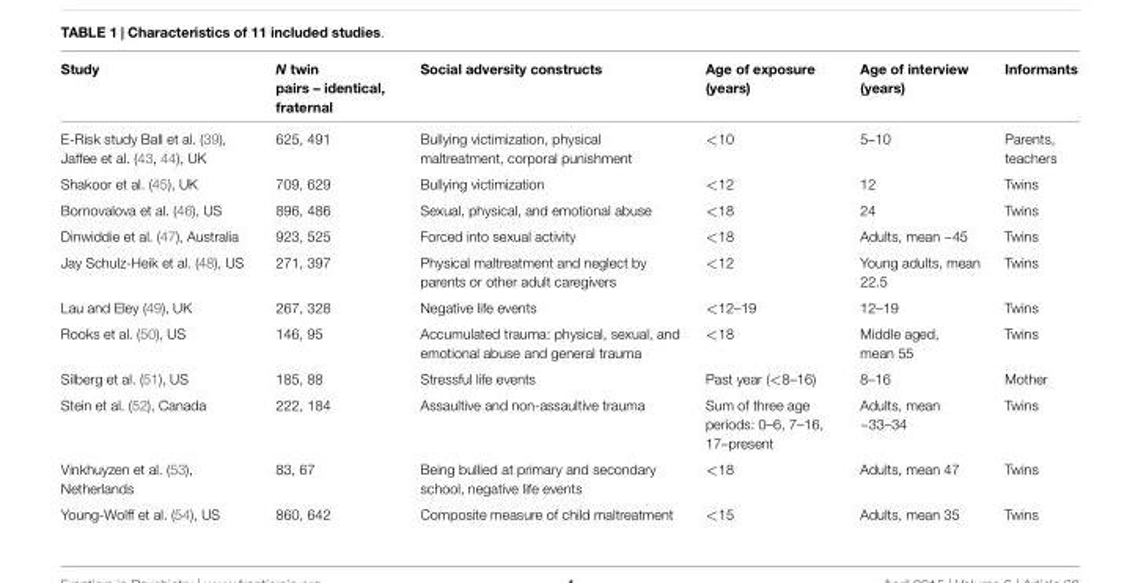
<table><thead><tr><td>Study</td><td>N twin pairs – identical, fraternal</td><td>Social adversity constructs</td><td>Age of exposure (years)</td><td>Age of interview (years)</td><td>Informants</td></tr></thead><tbody><tr><td>E-Risk study Ball et al. (39), Jaffee et al. (43, 44), UK</td><td>625, 491</td><td>Bullying victimization, physical maltreatment, corporal punishment</td><td>&lt;10</td><td>5–10</td><td>Parents, teachers</td></tr><tr><td>Shakoor et al. (45), UK</td><td>709, 629</td><td>Bullying victimization</td><td>&lt;12</td><td>12</td><td>Twins</td></tr><tr><td>Bornovalova et al. (46), US</td><td>896, 486</td><td>Sexual, physical, and emotional abuse</td><td>&lt;18</td><td>24</td><td>Twins</td></tr><tr><td>Dinwiddie et al. (47), Australia</td><td>923, 525</td><td>Forced into sexual activity</td><td>&lt;18</td><td>Adults, mean ~45</td><td>Twins</td></tr><tr><td>Jay Schulz-Heik et al. (48), US</td><td>271, 397</td><td>Physical maltreatment and neglect by parents or other adult caregivers</td><td>&lt;12</td><td>Young adults, mean 22.5</td><td>Twins</td></tr><tr><td>Lau and Eley (49), UK</td><td>267, 328</td><td>Negative life events</td><td>&lt;12–19</td><td>12–19</td><td>Twins</td></tr><tr><td>Rooks et al. (50), US</td><td>146, 95</td><td>Accumulated trauma: physical, sexual, and emotional abuse and general trauma</td><td>&lt;18</td><td>Middle aged, mean 55</td><td>Twins</td></tr><tr><td>Silberg et al. (51), US</td><td>185, 88</td><td>Stressful life events</td><td>Past year (&lt;8–16)</td><td>8–16</td><td>Mother</td></tr><tr><td>Stein et al. (52), Canada</td><td>222, 184</td><td>Assaultive and non-assaultive trauma</td><td>Sum of three age periods: 0–6, 7–16, 17–present</td><td>Adults, mean ~33–34</td><td>Twins</td></tr><tr><td>Vinkhuyzen et al. (53), Netherlands</td><td>83, 67</td><td>Being bullied at primary and secondary school, negative life events</td><td>&lt;18</td><td>Adults, mean 47</td><td>Twins</td></tr><tr><td>Young-Wolff et al. (54), US</td><td>860, 642</td><td>Composite measure of child maltreatment</td><td>&lt;15</td><td>Adults, mean 35</td><td>Twins</td></tr></tbody></table>